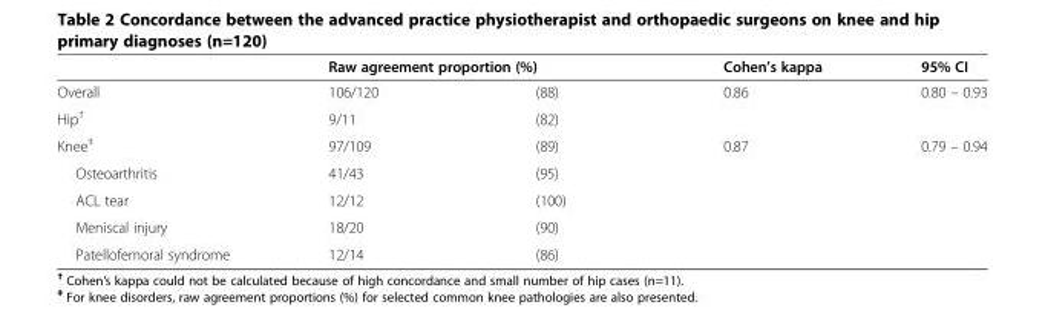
<table><thead><tr><td rowspan="2">Overall</td><td colspan="2">Raw agreement proportion (%)</td><td rowspan="2">Cohen’s kappa 0.86</td><td rowspan="2">95% CI 0.80 – 0.93</td></tr><tr><td>106/120</td><td>(88)</td></tr></thead><tbody><tr><td>Hip<sup>†</sup></td><td>9/11</td><td>(82)</td><td></td><td></td></tr><tr><td>Knee<sup>‡</sup></td><td>97/109</td><td>(89)</td><td>0.87</td><td>0.79 – 0.94</td></tr><tr><td>Osteoarthritis</td><td>41/43</td><td>(95)</td><td></td><td></td></tr><tr><td>ACL tear</td><td>12/12</td><td>(100)</td><td></td><td></td></tr><tr><td>Meniscal injury</td><td>18/20</td><td>(90)</td><td></td><td></td></tr><tr><td>Patellofemoral syndrome</td><td>12/14</td><td>(86)</td><td></td><td></td></tr></tbody></table>